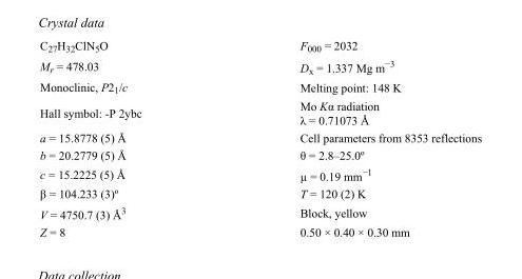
<table><tbody><tr><td>C<sub>27</sub>H<sub>32</sub>ClN<sub>5</sub>O</td><td>F000 = 2032</td></tr><tr><td>M<sub>r</sub> = 478.03</td><td>D<sub>x</sub> = 1.337 Mg m<sup>−3</sup></td></tr><tr><td>Monoclinic, P2<sub>1</sub>/c</td><td>Melting point: 148 K</td></tr><tr><td>Hall symbol: -P 2ybc</td><td>Mo Kα radiation λ = 0.71073 Å</td></tr><tr><td>a = 15.8778 (5) Å</td><td>Cell parameters from 8353 reflections</td></tr><tr><td>b = 20.2779 (5) Å</td><td>θ = 2.8–25.0º</td></tr><tr><td>c = 15.2225 (5) Å</td><td>µ = 0.19 mm<sup>−1</sup></td></tr><tr><td>β = 104.233 (3)º</td><td>T = 120 (2) K</td></tr><tr><td>V = 4750.7 (3) Å<sup>3</sup></td><td>Block, yellow</td></tr><tr><td>Z = 8</td><td>0.50 × 0.40 × 0.30 mm</td></tr></tbody></table>